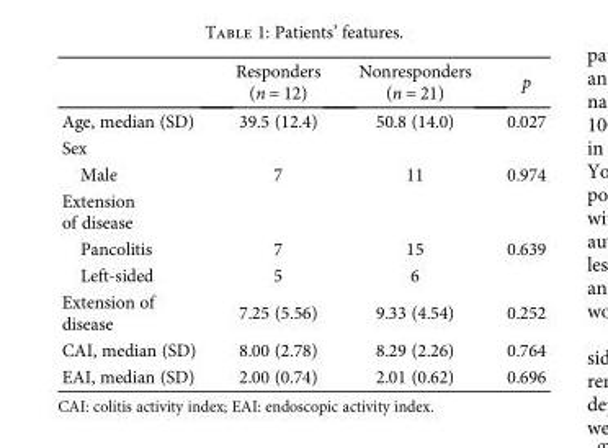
<table><thead><tr><td></td><td>Responders (n = 12)</td><td>Nonresponders (n = 21)</td><td>p</td></tr></thead><tbody><tr><td>Age, median (SD)</td><td>39.5 (12.4)</td><td>50.8 (14.0)</td><td>0.027</td></tr><tr><td colspan="4">Sex</td></tr><tr><td>Male</td><td>7</td><td>11</td><td>0.974</td></tr><tr><td colspan="4">Extension of disease</td></tr><tr><td>Pancolitis</td><td>7</td><td>15</td><td>0.639</td></tr><tr><td>Left-sided</td><td>5</td><td>6</td><td></td></tr><tr><td>Extension of disease</td><td>7.25 (5.56)</td><td>9.33 (4.54)</td><td>0.252</td></tr><tr><td>CAI, median (SD)</td><td>8.00 (2.78)</td><td>8.29 (2.26)</td><td>0.764</td></tr><tr><td>EAI, median (SD)</td><td>2.00 (0.74)</td><td>2.01 (0.62)</td><td>0.696</td></tr></tbody></table>